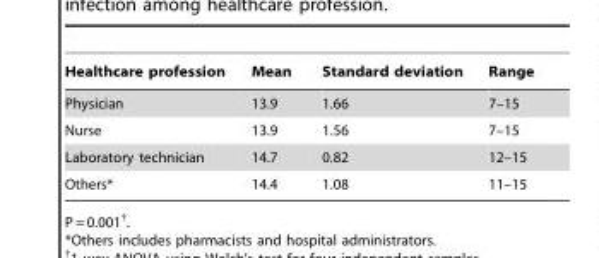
<table><thead><tr><td>Healthcare profession</td><td>Mean</td><td>Standard deviation</td><td>Range</td></tr></thead><tbody><tr><td>Physician</td><td>13.9</td><td>1.66</td><td>7–15</td></tr><tr><td>Nurse</td><td>13.9</td><td>1.56</td><td>7–15</td></tr><tr><td>Laboratory technician</td><td>14.7</td><td>0.82</td><td>12–15</td></tr><tr><td>Others*</td><td>14.4</td><td>1.08</td><td>11–15</td></tr></tbody></table>